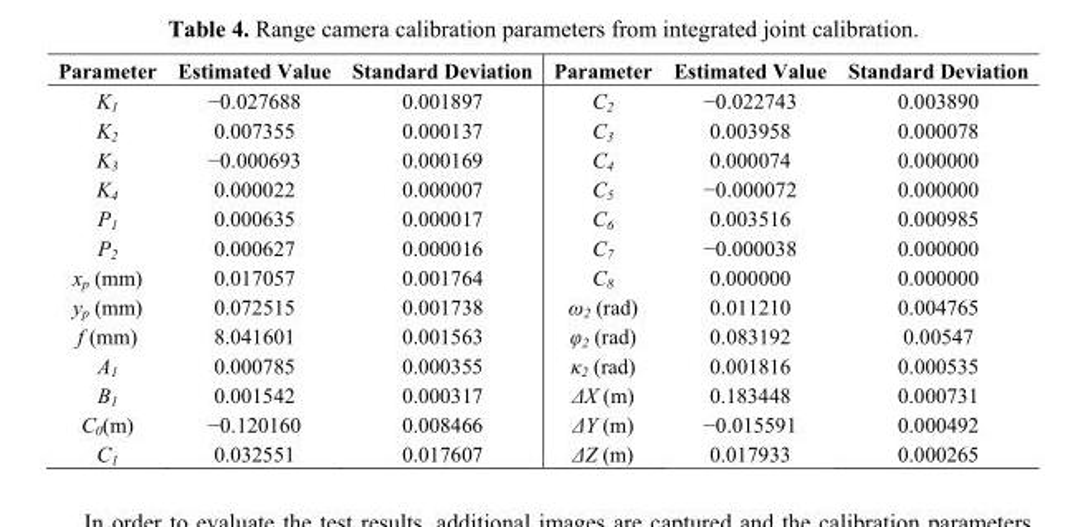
<table><thead><tr><td>Parameter</td><td>Estimated Value</td><td>Standard Deviation</td><td>Parameter</td><td>Estimated Value</td><td>Standard Deviation</td></tr></thead><tbody><tr><td>K<sub>1</sub></td><td>−0.027688</td><td>0.001897</td><td>C<sub>2</sub></td><td>−0.022743</td><td>0.003890</td></tr><tr><td>K<sub>2</sub></td><td>0.007355</td><td>0.000137</td><td>C<sub>3</sub></td><td>0.003958</td><td>0.000078</td></tr><tr><td>K<sub>3</sub></td><td>−0.000693</td><td>0.000169</td><td>C<sub>4</sub></td><td>0.000074</td><td>0.000000</td></tr><tr><td>K<sub>4</sub></td><td>0.000022</td><td>0.000007</td><td>C<sub>5</sub></td><td>−0.000072</td><td>0.000000</td></tr><tr><td>P<sub>1</sub></td><td>0.000635</td><td>0.000017</td><td>C<sub>6</sub></td><td>0.003516</td><td>0.000985</td></tr><tr><td>P<sub>2</sub></td><td>0.000627</td><td>0.000016</td><td>C<sub>7</sub></td><td>−0.000038</td><td>0.000000</td></tr><tr><td>x<sub>p</sub> (mm)</td><td>0.017057</td><td>0.001764</td><td>C<sub>8</sub></td><td>0.000000</td><td>0.000000</td></tr><tr><td>y<sub>p</sub> (mm)</td><td>0.072515</td><td>0.001738</td><td>ω<sub>2</sub> (rad)</td><td>0.011210</td><td>0.004765</td></tr><tr><td>f (mm)</td><td>8.041601</td><td>0.001563</td><td>φ<sub>2</sub> (rad)</td><td>0.083192</td><td>0.00547</td></tr><tr><td>A<sub>1</sub></td><td>0.000785</td><td>0.000355</td><td>κ<sub>2</sub> (rad)</td><td>0.001816</td><td>0.000535</td></tr><tr><td>B<sub>1</sub></td><td>0.001542</td><td>0.000317</td><td>ΔX (m)</td><td>0.183448</td><td>0.000731</td></tr><tr><td>C<sub>0</sub>(m)</td><td>−0.120160</td><td>0.008466</td><td>ΔY (m)</td><td>−0.015591</td><td>0.000492</td></tr><tr><td>C<sub>1</sub></td><td>0.032551</td><td>0.017607</td><td>ΔZ (m)</td><td>0.017933</td><td>0.000265</td></tr></tbody></table>